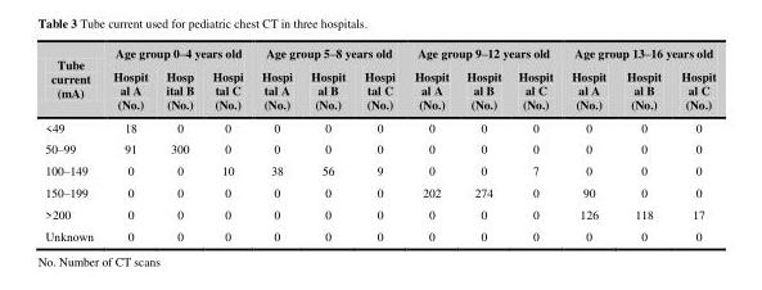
<table><thead><tr><td rowspan="2">Tube current (mA)</td><td colspan="3">Age group 0–4 years old</td><td colspan="3">Age group 5–8 years old</td><td colspan="3">Age group 9–12 years old</td><td colspan="3">Age group 13–16 years old</td></tr><tr><td>Hospit al A (No.)</td><td>Hosp ital B (No.)</td><td>Hospi tal C (No.)</td><td>Hospi tal A (No.)</td><td>Hospit al B (No.)</td><td>Hospi tal C (No.)</td><td>Hospit al A (No.)</td><td>Hospit al B (No.)</td><td>Hospit al C (No.)</td><td>Hospit al A (No.)</td><td>Hospit al B (No.)</td><td>Hospit al C (No.)</td></tr></thead><tbody><tr><td>&lt;49</td><td>18</td><td>0</td><td>0</td><td>0</td><td>0</td><td>0</td><td>0</td><td>0</td><td>0</td><td>0</td><td>0</td><td>0</td></tr><tr><td>50–99</td><td>91</td><td>300</td><td>0</td><td>0</td><td>0</td><td>0</td><td>0</td><td>0</td><td>0</td><td>0</td><td>0</td><td>0</td></tr><tr><td>100–149</td><td>0</td><td>0</td><td>10</td><td>38</td><td>56</td><td>9</td><td>0</td><td>0</td><td>7</td><td>0</td><td>0</td><td>0</td></tr><tr><td>150–199</td><td>0</td><td>0</td><td>0</td><td>0</td><td>0</td><td>0</td><td>202</td><td>274</td><td>0</td><td>90</td><td>0</td><td>0</td></tr><tr><td>&gt;200</td><td>0</td><td>0</td><td>0</td><td>0</td><td>0</td><td>0</td><td>0</td><td>0</td><td>0</td><td>126</td><td>118</td><td>17</td></tr><tr><td>Unknown</td><td>0</td><td>0</td><td>0</td><td>0</td><td>0</td><td>0</td><td>0</td><td>0</td><td>0</td><td>0</td><td>0</td><td>0</td></tr></tbody></table>